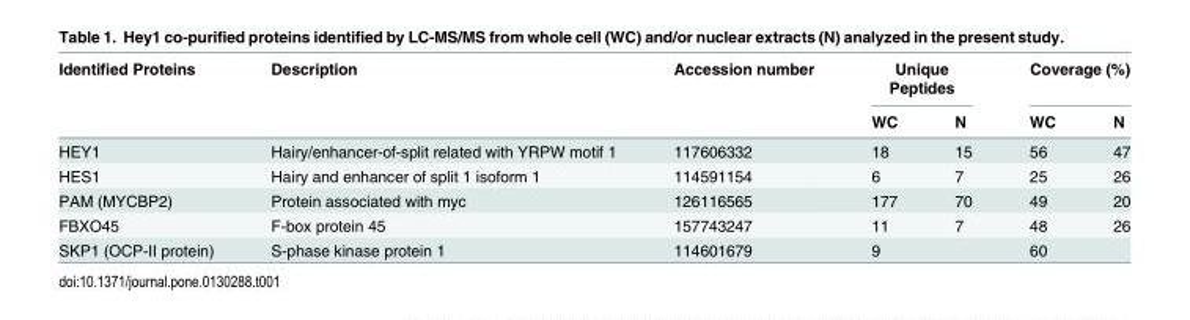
<table><thead><tr><td rowspan="2">Identified Proteins</td><td rowspan="2">Description</td><td rowspan="2">Accession number</td><td colspan="2">Unique Peptides</td><td colspan="2">Coverage (%)</td></tr><tr><td>WC</td><td>N</td><td>WC</td><td>N</td></tr></thead><tbody><tr><td>HEY1</td><td>Hairy/enhancer-of-split related with YRPW motif 1</td><td>117606332</td><td>18</td><td>15</td><td>56</td><td>47</td></tr><tr><td>HES1</td><td>Hairy and enhancer of split 1 isoform 1</td><td>114591154</td><td>6</td><td>7</td><td>25</td><td>26</td></tr><tr><td>PAM (MYCBP2)</td><td>Protein associated with myc</td><td>126116565</td><td>177</td><td>70</td><td>49</td><td>20</td></tr><tr><td>FBXO45</td><td>F-box protein 45</td><td>157743247</td><td>11</td><td>7</td><td>48</td><td>26</td></tr><tr><td>SKP1 (OCP-II protein)</td><td>S-phase kinase protein 1</td><td>114601679</td><td>9</td><td></td><td>60</td><td></td></tr></tbody></table>